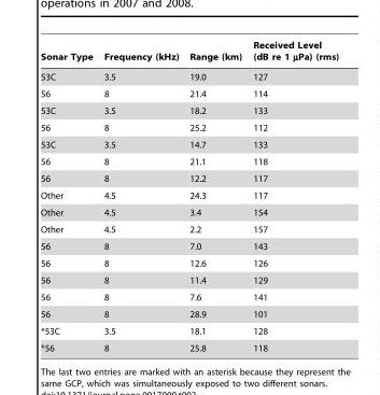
<table><thead><tr><td>Sonar Type</td><td>Frequency (kHz)</td><td>Range (km)</td><td>Received Level (dB re 1 µPa) (rms)</td></tr></thead><tbody><tr><td>53C</td><td>3.5</td><td>19.0</td><td>127</td></tr><tr><td>56</td><td>8</td><td>21.4</td><td>114</td></tr><tr><td>53C</td><td>3.5</td><td>18.2</td><td>133</td></tr><tr><td>56</td><td>8</td><td>25.2</td><td>112</td></tr><tr><td>53C</td><td>3.5</td><td>14.7</td><td>133</td></tr><tr><td>56</td><td>8</td><td>21.1</td><td>118</td></tr><tr><td>56</td><td>8</td><td>12.2</td><td>117</td></tr><tr><td>Other</td><td>4.5</td><td>24.3</td><td>117</td></tr><tr><td>Other</td><td>4.5</td><td>3.4</td><td>154</td></tr><tr><td>Other</td><td>4.5</td><td>2.2</td><td>157</td></tr><tr><td>56</td><td>8</td><td>7.0</td><td>143</td></tr><tr><td>56</td><td>8</td><td>12.6</td><td>126</td></tr><tr><td>56</td><td>8</td><td>11.4</td><td>129</td></tr><tr><td>56</td><td>8</td><td>7.6</td><td>141</td></tr><tr><td>56</td><td>8</td><td>28.9</td><td>101</td></tr><tr><td>*53C</td><td>3.5</td><td>18.1</td><td>128</td></tr><tr><td>*56</td><td>8</td><td>25.8</td><td>118</td></tr></tbody></table>